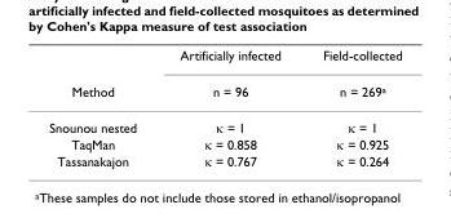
<table><thead><tr><td rowspan="2">Method</td><td rowspan="2">Artificially infected n = 96</td><td rowspan="2">Field-collected n = 269<sup>a</sup></td></tr><tr></tr></thead><tbody><tr><td>Snounou nested</td><td>κ = 1</td><td>κ = 1</td></tr><tr><td>TaqMan</td><td>κ = 0.858</td><td>κ = 0.925</td></tr><tr><td>Tassanakajon</td><td>κ = 0.767</td><td>κ = 0.264</td></tr></tbody></table>